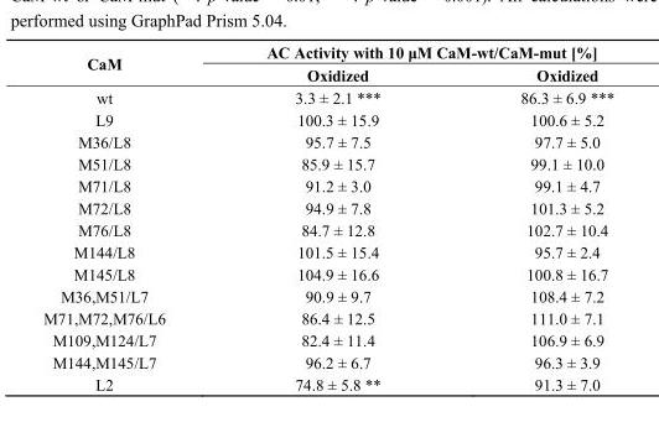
<table><thead><tr><td rowspan="2">CaM</td><td colspan="2">AC Activity with 10 μM CaM-wt/CaM-mut [%]</td></tr><tr><td>Oxidized</td><td>Oxidized</td></tr></thead><tbody><tr><td>wt</td><td>3.3 ± 2.1 ***</td><td>86.3 ± 6.9 ***</td></tr><tr><td>L9</td><td>100.3 ± 15.9</td><td>100.6 ± 5.2</td></tr><tr><td>M36/L8</td><td>95.7 ± 7.5</td><td>97.7 ± 5.0</td></tr><tr><td>M51/L8</td><td>85.9 ± 15.7</td><td>99.1 ± 10.0</td></tr><tr><td>M71/L8</td><td>91.2 ± 3.0</td><td>99.1 ± 4.7</td></tr><tr><td>M72/L8</td><td>94.9 ± 7.8</td><td>101.3 ± 5.2</td></tr><tr><td>M76/L8</td><td>84.7 ± 12.8</td><td>102.7 ± 10.4</td></tr><tr><td>M144/L8</td><td>101.5 ± 15.4</td><td>95.7 ± 2.4</td></tr><tr><td>M145/L8</td><td>104.9 ± 16.6</td><td>100.8 ± 16.7</td></tr><tr><td>M36,M51/L7</td><td>90.9 ± 9.7</td><td>108.4 ± 7.2</td></tr><tr><td>M71,M72,M76/L6</td><td>86.4 ± 12.5</td><td>111.0 ± 7.1</td></tr><tr><td>M109,M124/L7</td><td>82.4 ± 11.4</td><td>106.9 ± 6.9</td></tr><tr><td>M144,M145/L7</td><td>96.2 ± 6.7</td><td>96.3 ± 3.9</td></tr><tr><td>L2</td><td>74.8 ± 5.8 **</td><td>91.3 ± 7.0</td></tr></tbody></table>